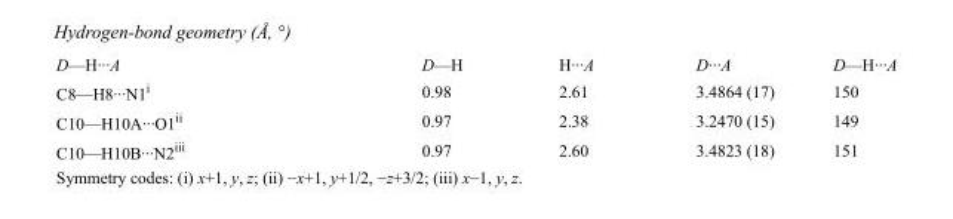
<table><tbody><tr><td>D—H···A</td><td>D—H</td><td>H···A</td><td>D···A</td><td>D—H···A</td></tr><tr><td>C8—H8···N1<sup>i</sup></td><td>0.98</td><td>2.61</td><td>3.4864 (17)</td><td>150</td></tr><tr><td>C10—H10A···O1<sup>ii</sup></td><td>0.97</td><td>2.38</td><td>3.2470 (15)</td><td>149</td></tr><tr><td>C10—H10B···N2<sup>iii</sup></td><td>0.97</td><td>2.60</td><td>3.4823 (18)</td><td>151</td></tr></tbody></table>